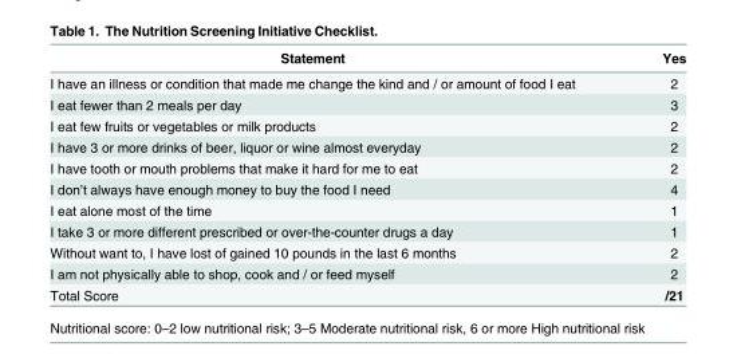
<table><thead><tr><td>Statement</td><td>Yes</td></tr></thead><tbody><tr><td>I have an illness or condition that made me change the kind and / or amount of food I eat</td><td>2</td></tr><tr><td>I eat fewer than 2 meals per day</td><td>3</td></tr><tr><td>I eat few fruits or vegetables or milk products</td><td>2</td></tr><tr><td>I have 3 or more drinks of beer, liquor or wine almost everyday</td><td>2</td></tr><tr><td>I have tooth or mouth problems that make it hard for me to eat</td><td>2</td></tr><tr><td>I don’t always have enough money to buy the food I need</td><td>4</td></tr><tr><td>I eat alone most of the time</td><td>1</td></tr><tr><td>I take 3 or more different prescribed or over-the-counter drugs a day</td><td>1</td></tr><tr><td>Without want to, I have lost of gained 10 pounds in the last 6 months</td><td>2</td></tr><tr><td>I am not physically able to shop, cook and / or feed myself</td><td>2</td></tr><tr><td>Total Score</td><td>/21</td></tr></tbody></table>